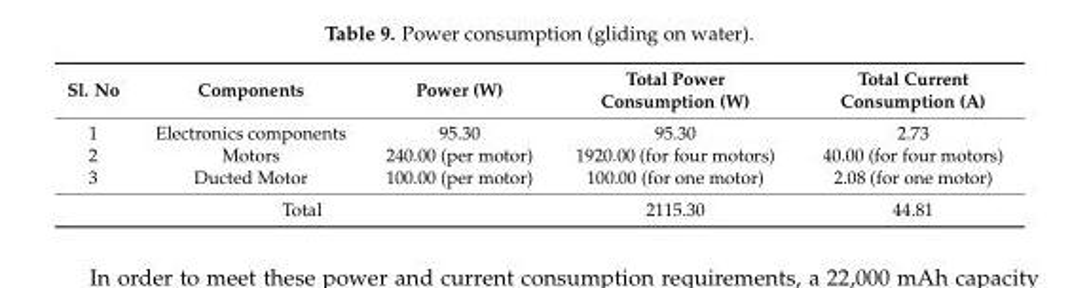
<table><thead><tr><td>Sl. No</td><td>Components</td><td>Power (W)</td><td>Total Power Consumption (W)</td><td>Total Current Consumption (A)</td></tr></thead><tbody><tr><td>1</td><td>Electronics components</td><td>95.30</td><td>95.30</td><td>2.73</td></tr><tr><td>2</td><td>Motors</td><td>240.00 (per motor)</td><td>1920.00 (for four motors)</td><td>40.00 (for four motors)</td></tr><tr><td>3</td><td>Ducted Motor</td><td>100.00 (per motor)</td><td>100.00 (for one motor)</td><td>2.08 (for one motor)</td></tr><tr><td colspan="3">Total</td><td>2115.30</td><td>44.81</td></tr></tbody></table>